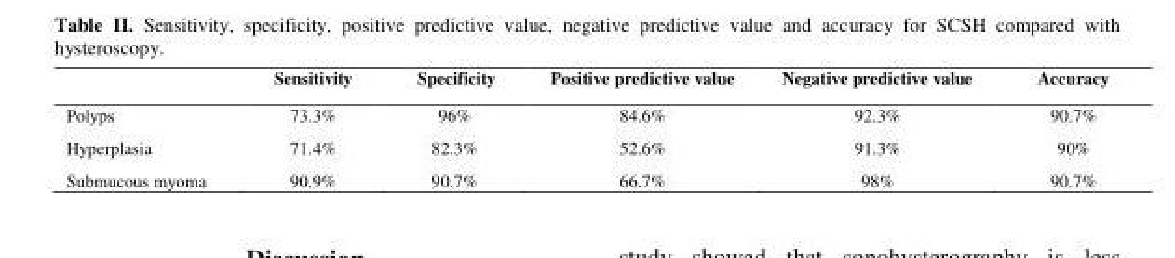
<table><thead><tr><td></td><td>Sensitivity</td><td>Specificity</td><td>Positive predictive value</td><td>Negative predictive value</td><td>Accuracy</td></tr></thead><tbody><tr><td>Polyps</td><td>73.3%</td><td>96%</td><td>84.6%</td><td>92.3%</td><td>90.7%</td></tr><tr><td>Hyperplasia</td><td>71.4%</td><td>82.3%</td><td>52.6%</td><td>91.3%</td><td>90%</td></tr><tr><td>Submucous myoma</td><td>90.9%</td><td>90.7%</td><td>66.7%</td><td>98%</td><td>90.7%</td></tr></tbody></table>